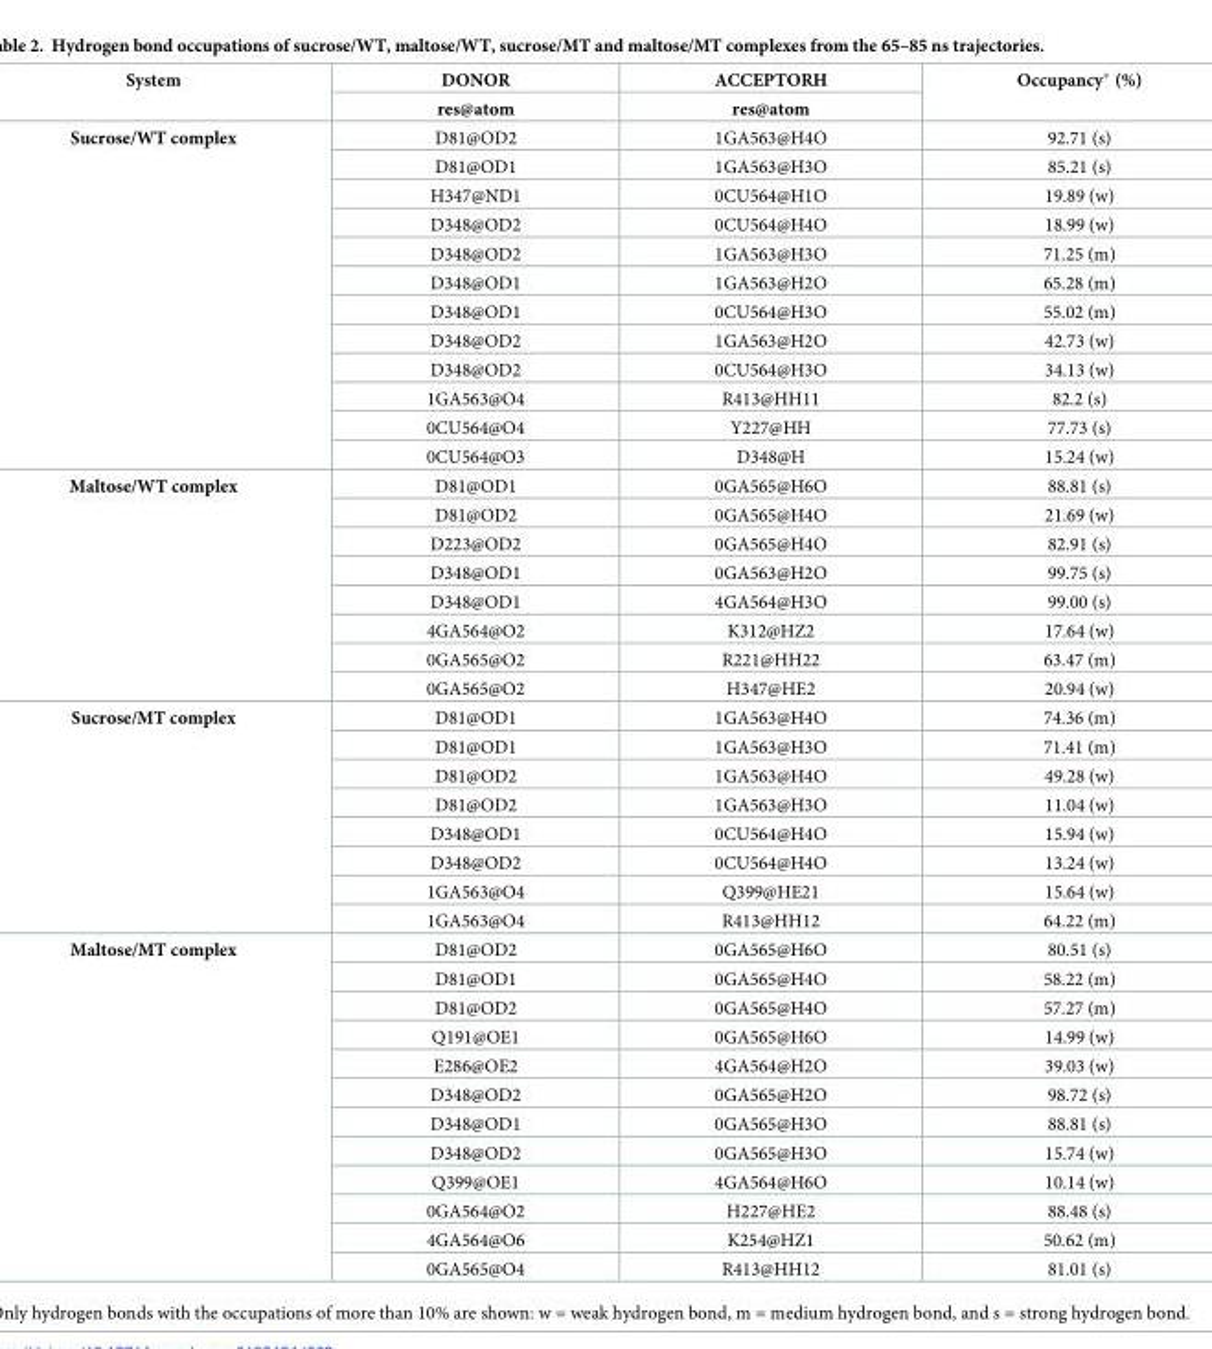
<table><thead><tr><td rowspan="2">System</td><td rowspan="2">DONOR res@atom</td><td rowspan="2">ACCEPTORH res@atom</td><td rowspan="2">Occupancy* (%)</td></tr><tr></tr></thead><tbody><tr><td rowspan="12">Sucrose/WT complex</td><td>D81@OD2</td><td>1GA563@H4O</td><td>92.71 (s)</td></tr><tr><td>D81@OD1</td><td>1GA563@H3O</td><td>85.21 (s)</td></tr><tr><td>H347@ND1</td><td>0CU564@H1O</td><td>19.89 (w)</td></tr><tr><td>D348@OD2</td><td>0CU564@H4O</td><td>18.99 (w)</td></tr><tr><td>D348@OD2</td><td>1GA563@H3O</td><td>71.25 (m)</td></tr><tr><td>D348@OD1</td><td>1GA563@H2O</td><td>65.28 (m)</td></tr><tr><td>D348@OD1</td><td>0CU564@H3O</td><td>55.02 (m)</td></tr><tr><td>D348@OD2</td><td>1GA563@H2O</td><td>42.73 (w)</td></tr><tr><td>D348@OD2</td><td>0CU564@H3O</td><td>34.13 (w)</td></tr><tr><td>1GA563@O4</td><td>R413@HH11</td><td>82.2 (s)</td></tr><tr><td>0CU564@O4</td><td>Y227@HH</td><td>77.73 (s)</td></tr><tr><td>0CU564@O3</td><td>D348@H</td><td>15.24 (w)</td></tr><tr><td rowspan="8">Maltose/WT complex</td><td>D81@OD1</td><td>0GA565@H6O</td><td>88.81 (s)</td></tr><tr><td>D81@OD2</td><td>0GA565@H4O</td><td>21.69 (w)</td></tr><tr><td>D223@OD2</td><td>0GA565@H4O</td><td>82.91 (s)</td></tr><tr><td>D348@OD1</td><td>0GA563@H2O</td><td>99.75 (s)</td></tr><tr><td>D348@OD1</td><td>4GA564@H3O</td><td>99.00 (s)</td></tr><tr><td>4GA564@O2</td><td>K312@HZ2</td><td>17.64 (w)</td></tr><tr><td>0GA565@O2</td><td>R221@HH22</td><td>63.47 (m)</td></tr><tr><td>0GA565@O2</td><td>H347@HE2</td><td>20.94 (w)</td></tr><tr><td rowspan="8">Sucrose/MT complex</td><td>D81@OD1</td><td>1GA563@H4O</td><td>74.36 (m)</td></tr><tr><td>D81@OD1</td><td>1GA563@H3O</td><td>71.41 (m)</td></tr><tr><td>D81@OD2</td><td>1GA563@H4O</td><td>49.28 (w)</td></tr><tr><td>D81@OD2</td><td>1GA563@H3O</td><td>11.04 (w)</td></tr><tr><td>D348@OD1</td><td>0CU564@H4O</td><td>15.94 (w)</td></tr><tr><td>D348@OD2</td><td>0CU564@H4O</td><td>13.24 (w)</td></tr><tr><td>1GA563@O4</td><td>Q399@HE21</td><td>15.64 (w)</td></tr><tr><td>1GA563@O4</td><td>R413@HH12</td><td>64.22 (m)</td></tr><tr><td rowspan="12">Maltose/MT complex</td><td>D81@OD2</td><td>0GA565@H6O</td><td>80.51 (s)</td></tr><tr><td>D81@OD1</td><td>0GA565@H4O</td><td>58.22 (m)</td></tr><tr><td>D81@OD2</td><td>0GA565@H4O</td><td>57.27 (m)</td></tr><tr><td>Q191@OE1</td><td>0GA565@H6O</td><td>14.99 (w)</td></tr><tr><td>E286@OE2</td><td>4GA564@H2O</td><td>39.03 (w)</td></tr><tr><td>D348@OD2</td><td>0GA565@H2O</td><td>98.72 (s)</td></tr><tr><td>D348@OD1</td><td>0GA565@H3O</td><td>88.81 (s)</td></tr><tr><td>D348@OD2</td><td>0GA565@H3O</td><td>15.74 (w)</td></tr><tr><td>Q399@OE1</td><td>4GA564@H6O</td><td>10.14 (w)</td></tr><tr><td>0GA564@O2</td><td>H227@HE2</td><td>88.48 (s)</td></tr><tr><td>4GA564@O6</td><td>K254@HZ1</td><td>50.62 (m)</td></tr><tr><td>0GA565@O4</td><td>R413@HH12</td><td>81.01 (s)</td></tr></tbody></table>